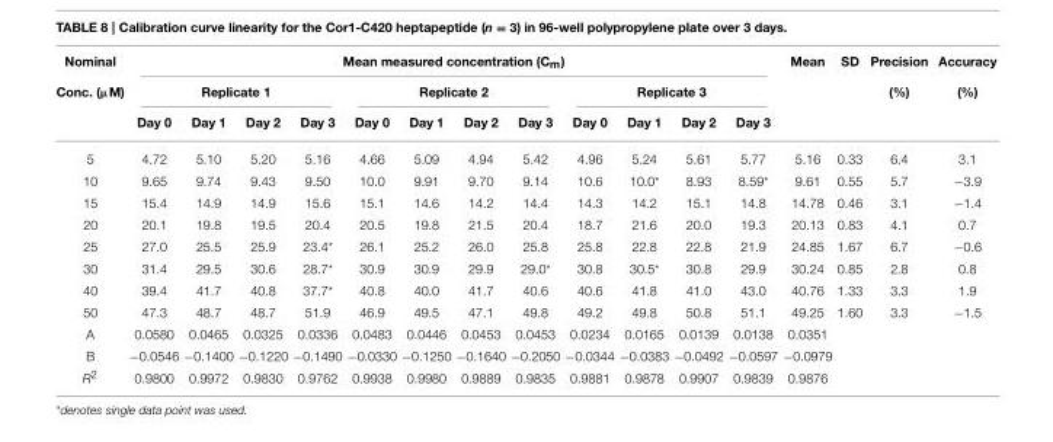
<table><thead><tr><td rowspan="3">Nominal Conc. (µM)</td><td colspan="12">Mean measured concentration (C<sub>m</sub>)</td><td rowspan="3">Mean</td><td rowspan="3">SD</td><td rowspan="3">Precision (%)</td><td rowspan="3">Accuracy (%)</td></tr><tr><td colspan="4">Replicate 1</td><td colspan="4">Replicate 2</td><td colspan="4">Replicate 3</td></tr><tr><td>Day 0</td><td>Day 1</td><td>Day 2</td><td>Day 3</td><td>Day 0</td><td>Day 1</td><td>Day 2</td><td>Day 3</td><td>Day 0</td><td>Day 1</td><td>Day 2</td><td>Day 3</td></tr></thead><tbody><tr><td>5</td><td>4.72</td><td>5.10</td><td>5.20</td><td>5.16</td><td>4.66</td><td>5.09</td><td>4.94</td><td>5.42</td><td>4.96</td><td>5.24</td><td>5.61</td><td>5.77</td><td>5.16</td><td>0.33</td><td>6.4</td><td>3.1</td></tr><tr><td>10</td><td>9.65</td><td>9.74</td><td>9.43</td><td>9.50</td><td>10.0</td><td>9.91</td><td>9.70</td><td>9.14</td><td>10.6</td><td>10.0*</td><td>8.93</td><td>8.59*</td><td>9.61</td><td>0.55</td><td>5.7</td><td>−3.9</td></tr><tr><td>15</td><td>15.4</td><td>14.9</td><td>14.9</td><td>15.6</td><td>15.1</td><td>14.6</td><td>14.2</td><td>14.4</td><td>14.3</td><td>14.2</td><td>15.1</td><td>14.8</td><td>14.78</td><td>0.46</td><td>3.1</td><td>−1.4</td></tr><tr><td>20</td><td>20.1</td><td>19.8</td><td>19.5</td><td>20.4</td><td>20.5</td><td>19.8</td><td>21.5</td><td>20.4</td><td>18.7</td><td>21.6</td><td>20.0</td><td>19.3</td><td>20.13</td><td>0.83</td><td>4.1</td><td>0.7</td></tr><tr><td>25</td><td>27.0</td><td>25.5</td><td>25.9</td><td>23.4*</td><td>26.1</td><td>25.2</td><td>26.0</td><td>25.8</td><td>25.8</td><td>22.8</td><td>22.8</td><td>21.9</td><td>24.85</td><td>1.67</td><td>6.7</td><td>−0.6</td></tr><tr><td>30</td><td>31.4</td><td>29.5</td><td>30.6</td><td>28.7*</td><td>30.9</td><td>30.9</td><td>29.9</td><td>29.0*</td><td>30.8</td><td>30.5*</td><td>30.8</td><td>29.9</td><td>30.24</td><td>0.85</td><td>2.8</td><td>0.8</td></tr><tr><td>40</td><td>39.4</td><td>41.7</td><td>40.8</td><td>37.7*</td><td>40.8</td><td>40.0</td><td>41.7</td><td>40.6</td><td>40.6</td><td>41.8</td><td>41.0</td><td>43.0</td><td>40.76</td><td>1.33</td><td>3.3</td><td>1.9</td></tr><tr><td>50</td><td>47.3</td><td>48.7</td><td>48.7</td><td>51.9</td><td>46.9</td><td>49.5</td><td>47.1</td><td>49.8</td><td>49.2</td><td>49.8</td><td>50.8</td><td>51.1</td><td>49.25</td><td>1.60</td><td>3.3</td><td>−1.5</td></tr><tr><td>A</td><td>0.0580</td><td>0.0465</td><td>0.0325</td><td>0.0336</td><td>0.0483</td><td>0.0446</td><td>0.0453</td><td>0.0453</td><td>0.0234</td><td>0.0165</td><td>0.0139</td><td>0.0138</td><td>0.0351</td><td></td><td></td><td></td></tr><tr><td>B</td><td>−0.0546</td><td>−0.1400</td><td>−0.1220</td><td>−0.1490</td><td>−0.0330</td><td>−0.1250</td><td>−0.1640</td><td>−0.2050</td><td>−0.0344</td><td>−0.0383</td><td>−0.0492</td><td>−0.0597</td><td>−0.0979</td><td></td><td></td><td></td></tr><tr><td>R<sup>2</sup></td><td>0.9800</td><td>0.9972</td><td>0.9830</td><td>0.9762</td><td>0.9938</td><td>0.9980</td><td>0.9889</td><td>0.9835</td><td>0.9881</td><td>0.9878</td><td>0.9907</td><td>0.9839</td><td>0.9876</td><td></td><td></td><td></td></tr></tbody></table>